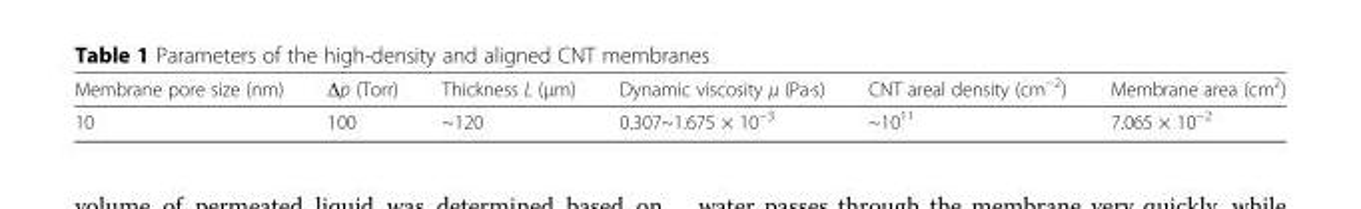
<table><thead><tr><td>Membrane pore size (nm)</td><td>Δp (Torr)</td><td>Thickness L (μm)</td><td>Dynamic viscosity μ (Pa·s)</td><td>CNT areal density (cm<sup>−2</sup>)</td><td>Membrane area (cm<sup>2</sup>)</td></tr></thead><tbody><tr><td>10</td><td>100</td><td>~120</td><td>0.307~1.675 × 10<sup>−3</sup></td><td>~10<sup>11</sup></td><td>7.065 × 10<sup>−2</sup></td></tr></tbody></table>